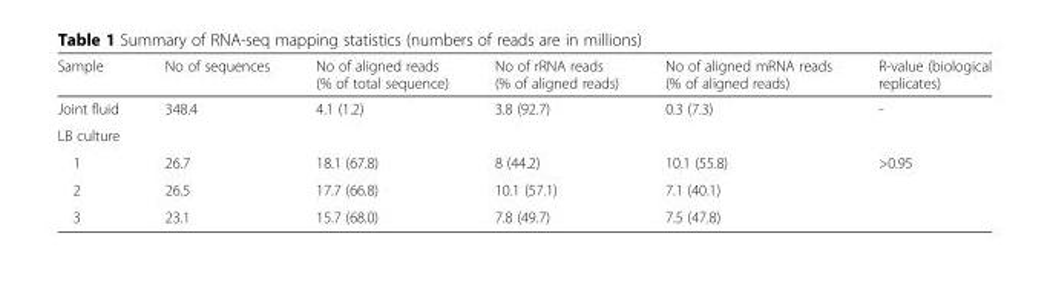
<table><thead><tr><td>Sample</td><td>No of sequences</td><td>No of aligned reads (% of total sequence)</td><td>No of rRNA reads (% of aligned reads)</td><td>No of aligned mRNA reads (% of aligned reads)</td><td>R-value (biological replicates)</td></tr></thead><tbody><tr><td>Joint fluid</td><td>348.4</td><td>4.1 (1.2)</td><td>3.8 (92.7)</td><td>0.3 (7.3)</td><td>-</td></tr><tr><td colspan="6">LB culture</td></tr><tr><td>1</td><td>26.7</td><td>18.1 (67.8)</td><td>8 (44.2)</td><td>10.1 (55.8)</td><td>&gt;0.95</td></tr><tr><td>2</td><td>26.5</td><td>17.7 (66.8)</td><td>10.1 (57.1)</td><td>7.1 (40.1)</td><td></td></tr><tr><td>3</td><td>23.1</td><td>15.7 (68.0)</td><td>7.8 (49.7)</td><td>7.5 (47.8)</td><td></td></tr></tbody></table>